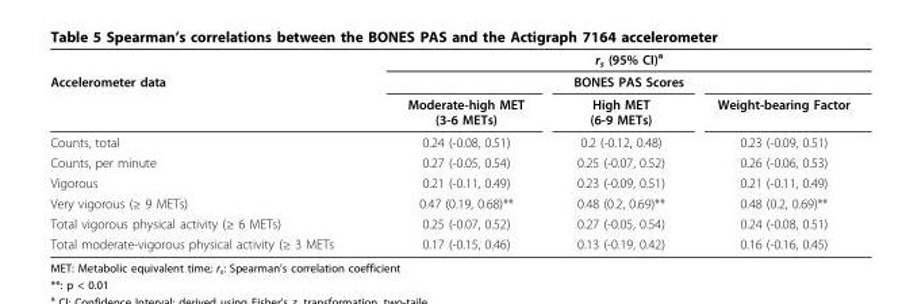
<table><thead><tr><td rowspan="3">Accelerometer data</td><td rowspan="2" colspan="3">r<sub>s</sub> (95% CI)<sup>a</sup> BONES PAS Scores</td></tr><tr></tr><tr><td>Moderate-high MET (3-6 METs)</td><td>High MET (6-9 METs)</td><td>Weight-bearing Factor</td></tr></thead><tbody><tr><td>Counts, total</td><td>0.24 (-0.08, 0.51)</td><td>0.2 (-0.12, 0.48)</td><td>0.23 (-0.09, 0.51)</td></tr><tr><td>Counts, per minute</td><td>0.27 (-0.05, 0.54)</td><td>0.25 (-0.07, 0.52)</td><td>0.26 (-0.06, 0.53)</td></tr><tr><td>Vigorous</td><td>0.21 (-0.11, 0.49)</td><td>0.23 (-0.09, 0.51)</td><td>0.21 (-0.11, 0.49)</td></tr><tr><td>Very vigorous (≥ 9 METs)</td><td>0.47 (0.19, 0.68)**</td><td>0.48 (0.2, 0.69)**</td><td>0.48 (0.2, 0.69)**</td></tr><tr><td>Total vigorous physical activity (≥ 6 METs)</td><td>0.25 (-0.07, 0.52)</td><td>0.27 (-0.05, 0.54)</td><td>0.24 (-0.08, 0.51)</td></tr><tr><td>Total moderate-vigorous physical activity (≥ 3 METs</td><td>0.17 (-0.15, 0.46)</td><td>0.13 (-0.19, 0.42)</td><td>0.16 (-0.16, 0.45)</td></tr></tbody></table>